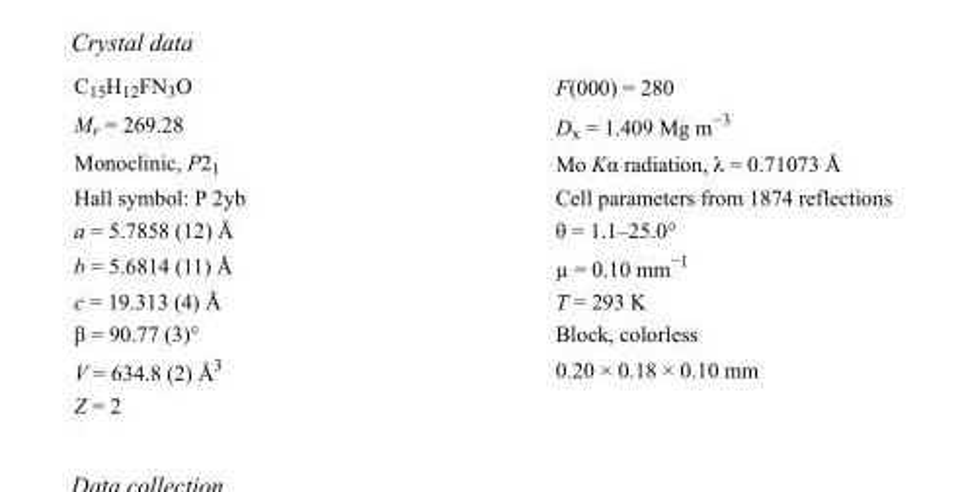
<table><tbody><tr><td>C<sub>15</sub>H<sub>12</sub>FN<sub>3</sub>O</td><td>F(000) = 280</td></tr><tr><td>M<sub>r</sub> = 269.28</td><td>D<sub>x</sub> = 1.409 Mg m<sup>−3</sup></td></tr><tr><td>Monoclinic, P2<sub>1</sub></td><td>Mo Kα radiation, λ = 0.71073 Å</td></tr><tr><td>Hall symbol: P 2yb</td><td>Cell parameters from 1874 reflections</td></tr><tr><td>a = 5.7858 (12) Å</td><td>θ = 1.1–25.0°</td></tr><tr><td>b = 5.6814 (11) Å</td><td>µ = 0.10 mm<sup>−1</sup></td></tr><tr><td>c = 19.313 (4) Å</td><td>T = 293 K</td></tr><tr><td>β = 90.77 (3)°</td><td>Block, colorless</td></tr><tr><td>V = 634.8 (2) Å<sup>3</sup></td><td>0.20 × 0.18 × 0.10 mm</td></tr><tr><td>Z = 2</td><td></td></tr></tbody></table>